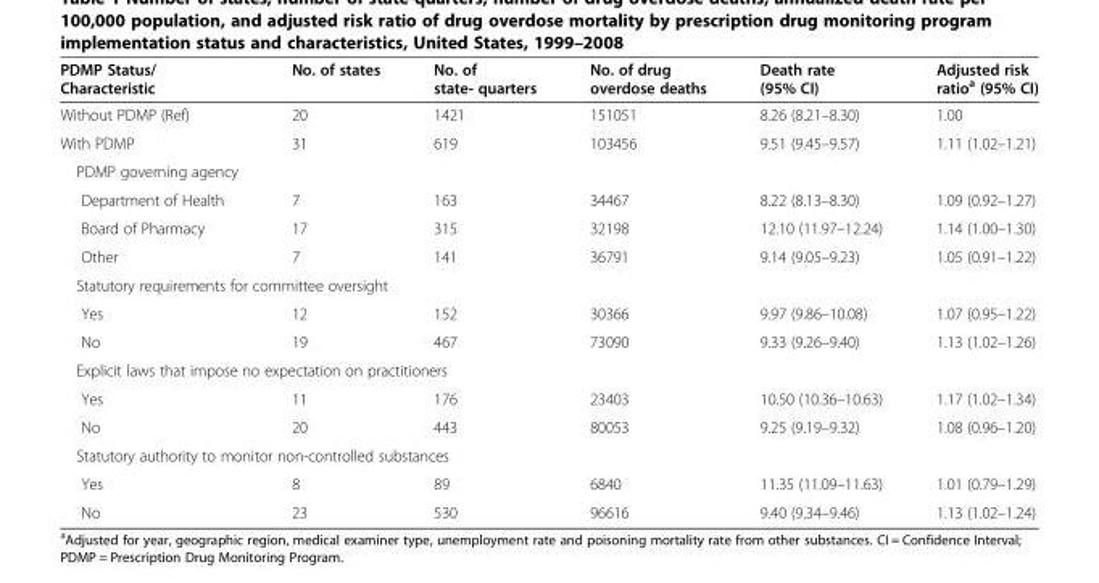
<table><thead><tr><td>PDMP Status/ Characteristic</td><td>No. of states</td><td>No. of state- quarters</td><td>No. of drug overdose deaths</td><td>Death rate (95% CI)</td><td>Adjusted risk ratio<sup>a</sup> (95% CI)</td></tr></thead><tbody><tr><td>Without PDMP (Ref)</td><td>20</td><td>1421</td><td>151051</td><td>8.26 (8.21–8.30)</td><td>1.00</td></tr><tr><td>With PDMP</td><td>31</td><td>619</td><td>103456</td><td>9.51 (9.45–9.57)</td><td>1.11 (1.02–1.21)</td></tr><tr><td colspan="6">PDMP governing agency</td></tr><tr><td>Department of Health</td><td>7</td><td>163</td><td>34467</td><td>8.22 (8.13–8.30)</td><td>1.09 (0.92–1.27)</td></tr><tr><td>Board of Pharmacy</td><td>17</td><td>315</td><td>32198</td><td>12.10 (11.97–12.24)</td><td>1.14 (1.00–1.30)</td></tr><tr><td>Other</td><td>7</td><td>141</td><td>36791</td><td>9.14 (9.05–9.23)</td><td>1.05 (0.91–1.22)</td></tr><tr><td colspan="6">Statutory requirements for committee oversight</td></tr><tr><td>Yes</td><td>12</td><td>152</td><td>30366</td><td>9.97 (9.86–10.08)</td><td>1.07 (0.95–1.22)</td></tr><tr><td>No</td><td>19</td><td>467</td><td>73090</td><td>9.33 (9.26–9.40)</td><td>1.13 (1.02–1.26)</td></tr><tr><td colspan="6">Explicit laws that impose no expectation on practitioners</td></tr><tr><td>Yes</td><td>11</td><td>176</td><td>23403</td><td>10.50 (10.36–10.63)</td><td>1.17 (1.02–1.34)</td></tr><tr><td>No</td><td>20</td><td>443</td><td>80053</td><td>9.25 (9.19–9.32)</td><td>1.08 (0.96–1.20)</td></tr><tr><td colspan="6">Statutory authority to monitor non-controlled substances</td></tr><tr><td>Yes</td><td>8</td><td>89</td><td>6840</td><td>11.35 (11.09–11.63)</td><td>1.01 (0.79–1.29)</td></tr><tr><td>No</td><td>23</td><td>530</td><td>96616</td><td>9.40 (9.34–9.46)</td><td>1.13 (1.02–1.24)</td></tr></tbody></table>